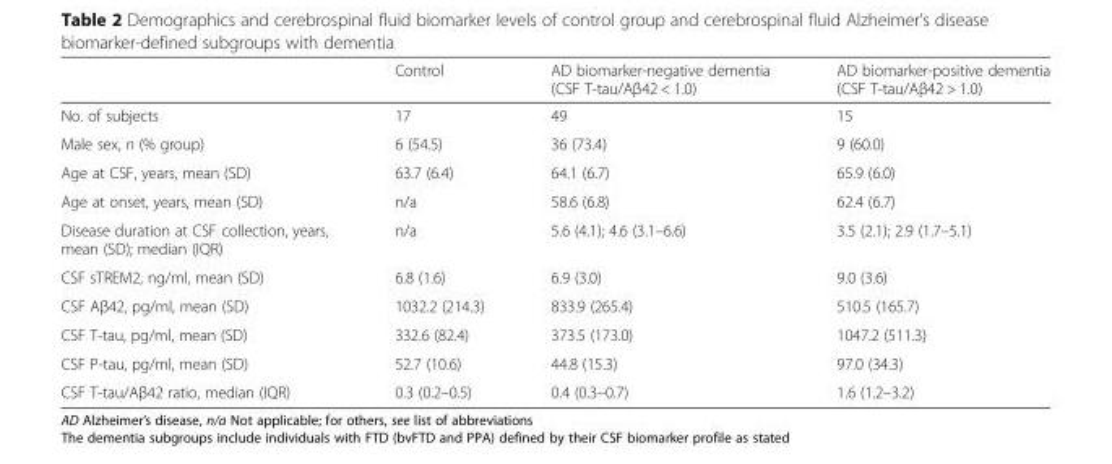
<table><thead><tr><td></td><td>Control</td><td>AD biomarker-negative dementia (CSF T-tau/Aβ42 &lt; 1.0)</td><td>AD biomarker-positive dementia (CSF T-tau/Aβ42 &gt; 1.0)</td></tr></thead><tbody><tr><td>No. of subjects</td><td>17</td><td>49</td><td>15</td></tr><tr><td>Male sex, n (% group)</td><td>6 (54.5)</td><td>36 (73.4)</td><td>9 (60.0)</td></tr><tr><td>Age at CSF, years, mean (SD)</td><td>63.7 (6.4)</td><td>64.1 (6.7)</td><td>65.9 (6.0)</td></tr><tr><td>Age at onset, years, mean (SD)</td><td>n/a</td><td>58.6 (6.8)</td><td>62.4 (6.7)</td></tr><tr><td>Disease duration at CSF collection, years, mean (SD); median (IQR)</td><td>n/a</td><td>5.6 (4.1); 4.6 (3.1–6.6)</td><td>3.5 (2.1); 2.9 (1.7–5.1)</td></tr><tr><td>CSF sTREM2, ng/ml, mean (SD)</td><td>6.8 (1.6)</td><td>6.9 (3.0)</td><td>9.0 (3.6)</td></tr><tr><td>CSF Aβ42, pg/ml, mean (SD)</td><td>1032.2 (214.3)</td><td>833.9 (265.4)</td><td>510.5 (165.7)</td></tr><tr><td>CSF T-tau, pg/ml, mean (SD)</td><td>332.6 (82.4)</td><td>373.5 (173.0)</td><td>1047.2 (511.3)</td></tr><tr><td>CSF P-tau, pg/ml, mean (SD)</td><td>52.7 (10.6)</td><td>44.8 (15.3)</td><td>97.0 (34.3)</td></tr><tr><td>CSF T-tau/Aβ42 ratio, median (IQR)</td><td>0.3 (0.2–0.5)</td><td>0.4 (0.3–0.7)</td><td>1.6 (1.2–3.2)</td></tr></tbody></table>